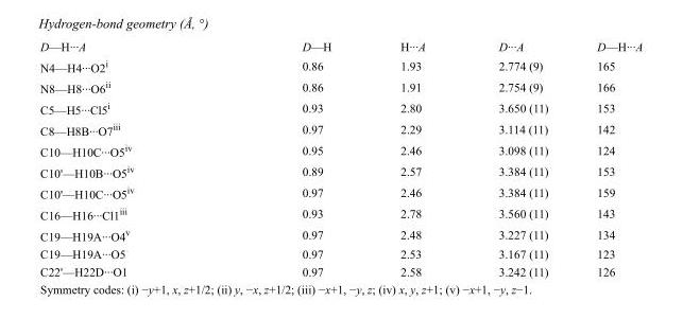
<table><tbody><tr><td>D—H···A</td><td>D—H</td><td>H···A</td><td>D···A</td><td>D—H···A</td></tr><tr><td>N4—H4···O2<sup>i</sup></td><td>0.86</td><td>1.93</td><td>2.774 (9)</td><td>165</td></tr><tr><td>N8—H8···O6<sup>ii</sup></td><td>0.86</td><td>1.91</td><td>2.754 (9)</td><td>166</td></tr><tr><td>C5—H5···Cl5<sup>i</sup></td><td>0.93</td><td>2.80</td><td>3.650 (11)</td><td>153</td></tr><tr><td>C8—H8B···O7<sup>iii</sup></td><td>0.97</td><td>2.29</td><td>3.114 (11)</td><td>142</td></tr><tr><td>C10—H10C···O5<sup>iv</sup></td><td>0.95</td><td>2.46</td><td>3.098 (11)</td><td>124</td></tr><tr><td>C10&#x27;—H10B···O5<sup>iv</sup></td><td>0.89</td><td>2.57</td><td>3.384 (11)</td><td>153</td></tr><tr><td>C10&#x27;—H10C···O5<sup>iv</sup></td><td>0.97</td><td>2.46</td><td>3.384 (11)</td><td>159</td></tr><tr><td>C16—H16···Cl1<sup>iii</sup></td><td>0.93</td><td>2.78</td><td>3.560 (11)</td><td>143</td></tr><tr><td>C19—H19A···O4<sup>v</sup></td><td>0.97</td><td>2.48</td><td>3.227 (11)</td><td>134</td></tr><tr><td>C19—H19A···O5</td><td>0.97</td><td>2.53</td><td>3.167 (11)</td><td>123</td></tr><tr><td>C22&#x27;—H22D···O1</td><td>0.97</td><td>2.58</td><td>3.242 (11)</td><td>126</td></tr></tbody></table>